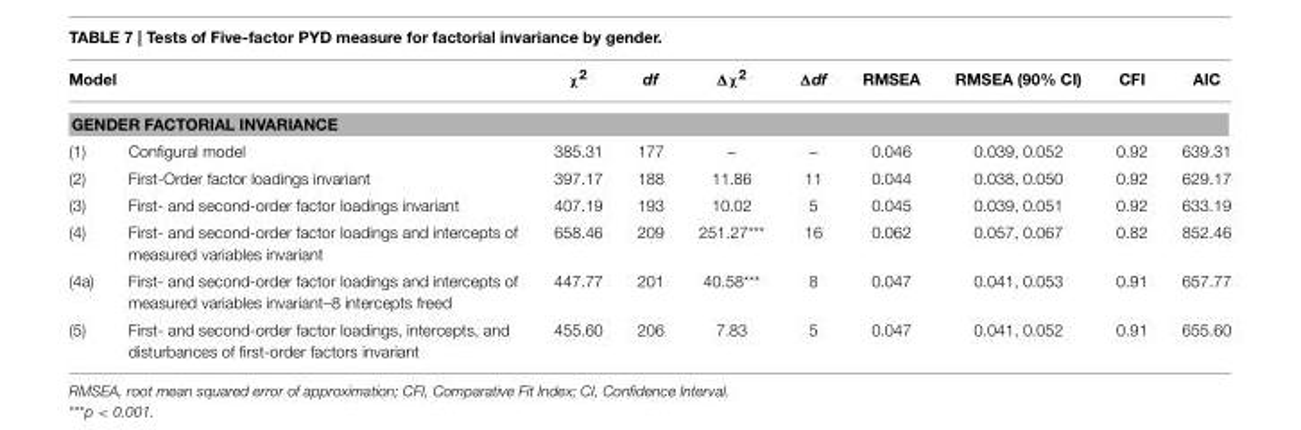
<table><thead><tr><td colspan="2">Model</td><td>χ<sup>2</sup></td><td>df</td><td>Δχ<sup>2</sup></td><td>Δdf</td><td>RMSEA</td><td>RMSEA (90% CI)</td><td>CFI</td><td>AIC</td></tr><tr><td colspan="10">GENDER FACTORIAL INVARIANCE</td></tr><tr><td>(1)</td><td>Configural model</td><td>385.31</td><td>177</td><td>–</td><td>–</td><td>0.046</td><td>0.039, 0.052</td><td>0.92</td><td>639.31</td></tr></thead><tbody><tr><td>(2)</td><td>First-Order factor loadings invariant</td><td>397.17</td><td>188</td><td>11.86</td><td>11</td><td>0.044</td><td>0.038, 0.050</td><td>0.92</td><td>629.17</td></tr><tr><td>(3)</td><td>First- and second-order factor loadings invariant</td><td>407.19</td><td>193</td><td>10.02</td><td>5</td><td>0.045</td><td>0.039, 0.051</td><td>0.92</td><td>633.19</td></tr><tr><td>(4)</td><td>First- and second-order factor loadings and intercepts of measured variables invariant</td><td>658.46</td><td>209</td><td>251.27***</td><td>16</td><td>0.062</td><td>0.057, 0.067</td><td>0.82</td><td>852.46</td></tr><tr><td>(4a)</td><td>First- and second-order factor loadings and intercepts of measured variables invariant–8 intercepts freed</td><td>447.77</td><td>201</td><td>40.58***</td><td>8</td><td>0.047</td><td>0.041, 0.053</td><td>0.91</td><td>657.77</td></tr><tr><td>(5)</td><td>First- and second-order factor loadings, intercepts, and disturbances of first-order factors invariant</td><td>455.60</td><td>206</td><td>7.83</td><td>5</td><td>0.047</td><td>0.041, 0.052</td><td>0.91</td><td>655.60</td></tr></tbody></table>